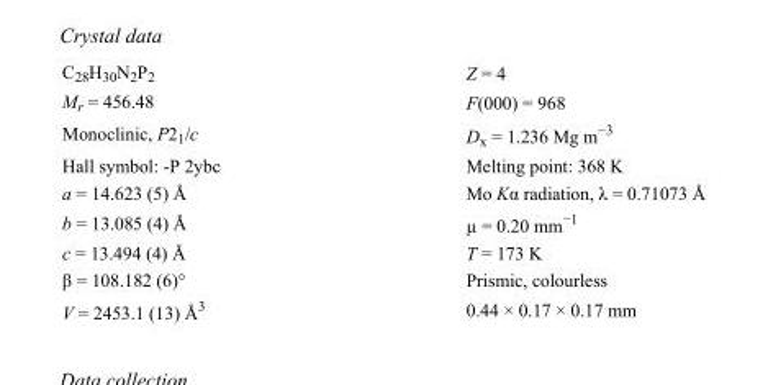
<table><tbody><tr><td>C<sub>28</sub>H<sub>30</sub>N<sub>2</sub>P<sub>2</sub></td><td>Z = 4</td></tr><tr><td>M<sub>r</sub> = 456.48</td><td>F(000) = 968</td></tr><tr><td>Monoclinic, P2<sub>1</sub>/c</td><td>D<sub>x</sub> = 1.236 Mg m<sup>−3</sup></td></tr><tr><td>Hall symbol: -P 2ybc</td><td>Melting point: 368 K</td></tr><tr><td>a = 14.623 (5) Å</td><td>Mo Kα radiation, λ = 0.71073 Å</td></tr><tr><td>b = 13.085 (4) Å</td><td>µ = 0.20 mm<sup>−1</sup></td></tr><tr><td>c = 13.494 (4) Å</td><td>T = 173 K</td></tr><tr><td>β = 108.182 (6)°</td><td>Prismic, colourless</td></tr><tr><td>V = 2453.1 (13) Å<sup>3</sup></td><td>0.44 × 0.17 × 0.17 mm</td></tr></tbody></table>